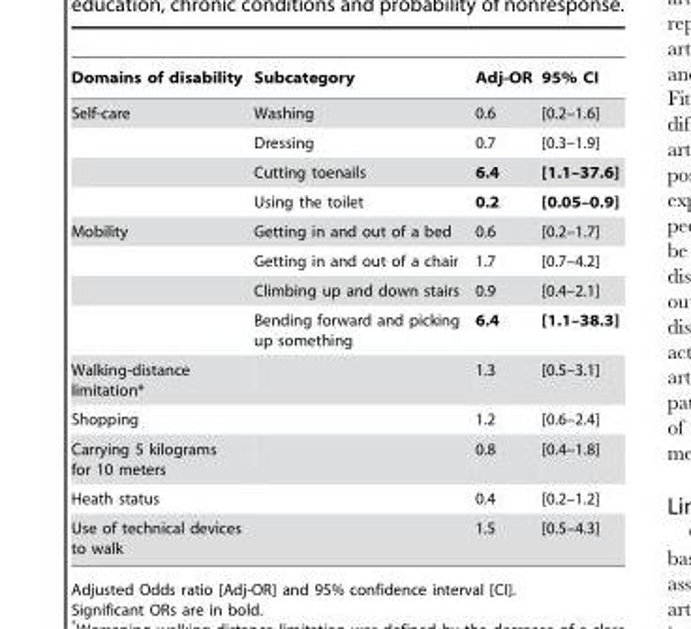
<table><thead><tr><td>Domains of disability</td><td>Subcategory</td><td>Adj-OR</td><td>95% CI</td></tr></thead><tbody><tr><td rowspan="4">Self-care</td><td>Washing</td><td>0.6</td><td>[0.2–1.6]</td></tr><tr><td>Dressing</td><td>0.7</td><td>[0.3–1.9]</td></tr><tr><td>Cutting toenails</td><td>6.4</td><td>[1.1–37.6]</td></tr><tr><td>Using the toilet</td><td>0.2</td><td>[0.05–0.9]</td></tr><tr><td rowspan="4">Mobility</td><td>Getting in and out of a bed</td><td>0.6</td><td>[0.2–1.7]</td></tr><tr><td>Getting in and out of a chair</td><td>1.7</td><td>[0.7–4.2]</td></tr><tr><td>Climbing up and down stairs</td><td>0.9</td><td>[0.4–2.1]</td></tr><tr><td>Bending forward and picking up something</td><td>6.4</td><td>[1.1–38.3]</td></tr><tr><td>Walking-distance limitation*</td><td></td><td>1.3</td><td>[0.5–3.1]</td></tr><tr><td>Shopping</td><td></td><td>1.2</td><td>[0.6–2.4]</td></tr><tr><td>Carrying 5 kilograms for 10 meters</td><td></td><td>0.8</td><td>[0.4–1.8]</td></tr><tr><td>Heath status</td><td></td><td>0.4</td><td>[0.2–1.2]</td></tr><tr><td>Use of technical devices to walk</td><td></td><td>1.5</td><td>[0.5–4.3]</td></tr></tbody></table>